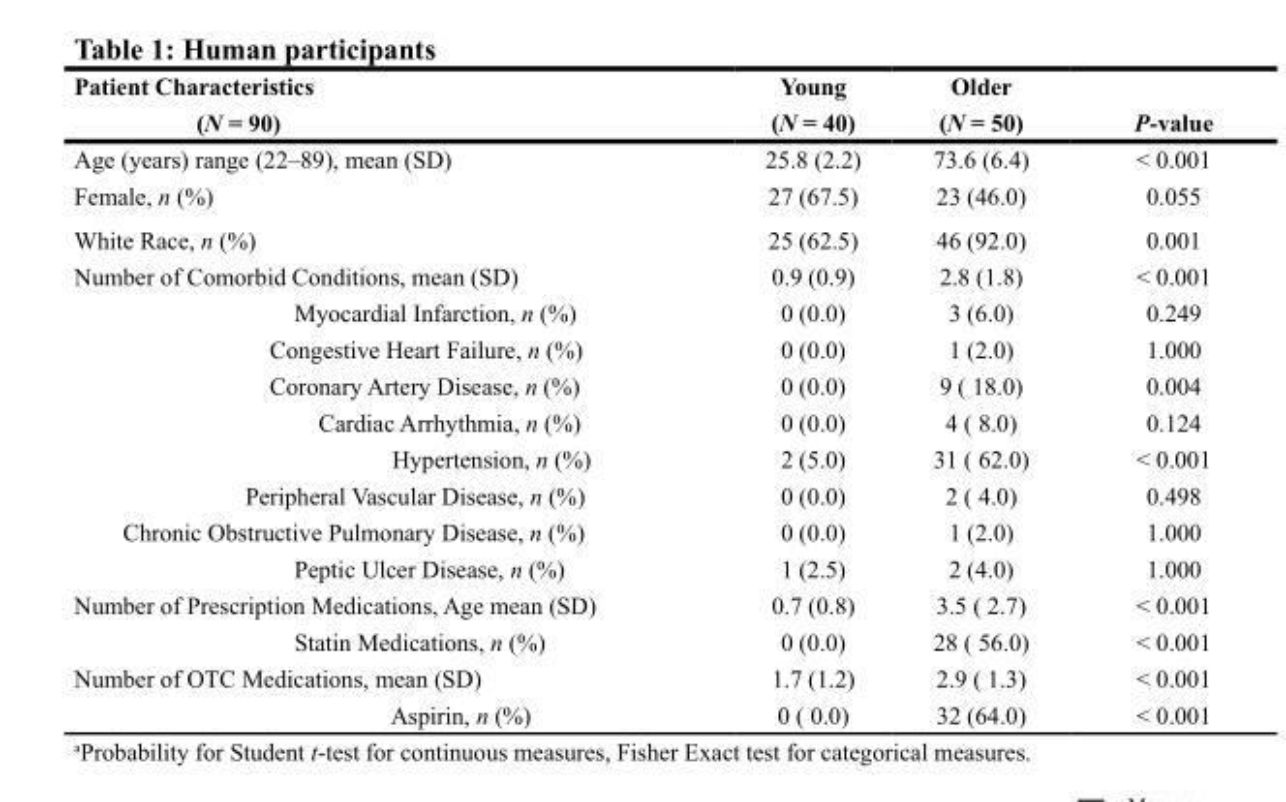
<table><thead><tr><td rowspan="2">Patient Characteristics (N = 90)</td><td rowspan="2">Young (N = 40)</td><td rowspan="2">Older (N = 50)</td><td rowspan="2">P-value</td></tr><tr></tr></thead><tbody><tr><td>Age (years) range (22–89), mean (SD)</td><td>25.8 (2.2)</td><td>73.6 (6.4)</td><td>&lt; 0.001</td></tr><tr><td>Female, n (%)</td><td>27 (67.5)</td><td>23 (46.0)</td><td>0.055</td></tr><tr><td>White Race, n (%)</td><td>25 (62.5)</td><td>46 (92.0)</td><td>0.001</td></tr><tr><td>Number of Comorbid Conditions, mean (SD)</td><td>0.9 (0.9)</td><td>2.8 (1.8)</td><td>&lt; 0.001</td></tr><tr><td>Myocardial Infarction, n (%)</td><td>0 (0.0)</td><td>3 (6.0)</td><td>0.249</td></tr><tr><td>Congestive Heart Failure, n (%)</td><td>0 (0.0)</td><td>1 (2.0)</td><td>1.000</td></tr><tr><td>Coronary Artery Disease, n (%)</td><td>0 (0.0)</td><td>9 ( 18.0)</td><td>0.004</td></tr><tr><td>Cardiac Arrhythmia, n (%)</td><td>0 (0.0)</td><td>4 ( 8.0)</td><td>0.124</td></tr><tr><td>Hypertension, n (%)</td><td>2 (5.0)</td><td>31 ( 62.0)</td><td>&lt; 0.001</td></tr><tr><td>Peripheral Vascular Disease, n (%)</td><td>0 (0.0)</td><td>2 ( 4.0)</td><td>0.498</td></tr><tr><td>Chronic Obstructive Pulmonary Disease, n (%)</td><td>0 (0.0)</td><td>1 (2.0)</td><td>1.000</td></tr><tr><td>Peptic Ulcer Disease, n (%)</td><td>1 (2.5)</td><td>2 (4.0)</td><td>1.000</td></tr><tr><td>Number of Prescription Medications, Age mean (SD)</td><td>0.7 (0.8)</td><td>3.5 ( 2.7)</td><td>&lt; 0.001</td></tr><tr><td>Statin Medications, n (%)</td><td>0 (0.0)</td><td>28 ( 56.0)</td><td>&lt; 0.001</td></tr><tr><td>Number of OTC Medications, mean (SD)</td><td>1.7 (1.2)</td><td>2.9 ( 1.3)</td><td>&lt; 0.001</td></tr><tr><td>Aspirin, n (%)</td><td>0 ( 0.0)</td><td>32 (64.0)</td><td>&lt; 0.001</td></tr></tbody></table>